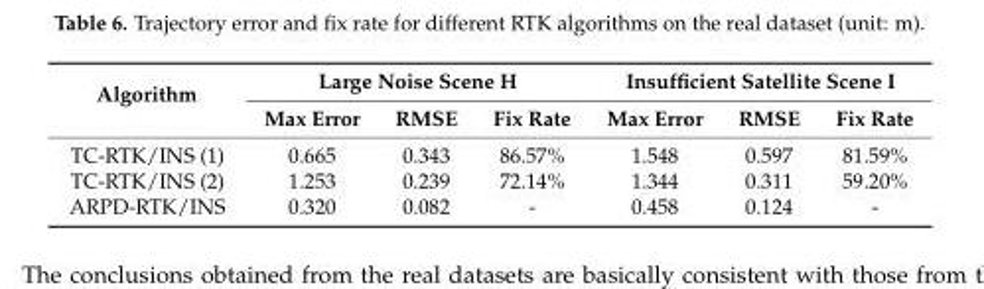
<table><thead><tr><td rowspan="2">Algorithm</td><td colspan="3">Large Noise Scene H</td><td colspan="3">Insufficient Satellite Scene I</td></tr><tr><td>Max Error</td><td>RMSE</td><td>Fix Rate</td><td>Max Error</td><td>RMSE</td><td>Fix Rate</td></tr></thead><tbody><tr><td>TC-RTK/INS (1)</td><td>0.665</td><td>0.343</td><td>86.57%</td><td>1.548</td><td>0.597</td><td>81.59%</td></tr><tr><td>TC-RTK/INS (2)</td><td>1.253</td><td>0.239</td><td>72.14%</td><td>1.344</td><td>0.311</td><td>59.20%</td></tr><tr><td>ARPD-RTK/INS</td><td>0.320</td><td>0.082</td><td>-</td><td>0.458</td><td>0.124</td><td>-</td></tr></tbody></table>